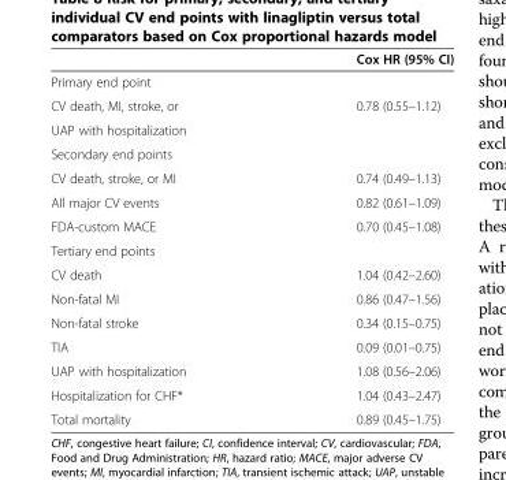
<table><thead><tr><td></td><td>Cox HR (95% CI)</td></tr></thead><tbody><tr><td colspan="2">Primary end point</td></tr><tr><td>CV death, MI, stroke, or</td><td>0.78 (0.55–1.12)</td></tr><tr><td colspan="2">UAP with hospitalization</td></tr><tr><td colspan="2">Secondary end points</td></tr><tr><td>CV death, stroke, or MI</td><td>0.74 (0.49–1.13)</td></tr><tr><td>All major CV events</td><td>0.82 (0.61–1.09)</td></tr><tr><td>FDA-custom MACE</td><td>0.70 (0.45–1.08)</td></tr><tr><td colspan="2">Tertiary end points</td></tr><tr><td>CV death</td><td>1.04 (0.42–2.60)</td></tr><tr><td>Non-fatal MI</td><td>0.86 (0.47–1.56)</td></tr><tr><td>Non-fatal stroke</td><td>0.34 (0.15–0.75)</td></tr><tr><td>TIA</td><td>0.09 (0.01–0.75)</td></tr><tr><td>UAP with hospitalization</td><td>1.08 (0.56–2.06)</td></tr><tr><td>Hospitalization for CHF*</td><td>1.04 (0.43–2.47)</td></tr><tr><td>Total mortality</td><td>0.89 (0.45–1.75)</td></tr></tbody></table>